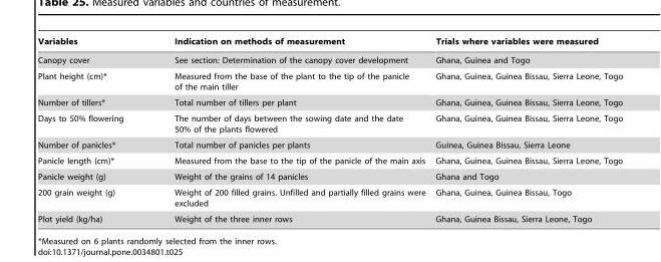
<table><thead><tr><td>Variables</td><td>Indication on methods of measurement</td><td>Trials where variables were measured</td></tr></thead><tbody><tr><td>Canopy cover</td><td>See section: Determination of the canopy cover development</td><td>Ghana, Guinea and Togo</td></tr><tr><td>Plant height (cm)*</td><td>Measured from the base of the plant to the tip of the panicle of the main tiller</td><td>Ghana, Guinea, Guinea Bissau, Sierra Leone, Togo</td></tr><tr><td>Number of tillers*</td><td>Total number of tillers per plant</td><td>Ghana, Guinea, Guinea Bissau, Sierra Leone, Togo</td></tr><tr><td>Days to 50% flowering</td><td>The number of days between the sowing date and the date 50% of the plants flowered</td><td>Ghana, Guinea, Guinea Bissau, Sierra Leone, Togo</td></tr><tr><td>Number of panicles*</td><td>Total number of panicles per plants</td><td>Guinea, Guinea Bissau, Sierra Leone</td></tr><tr><td>Panicle length (cm)*</td><td>Measured from the base to the tip of the panicle of the main axis</td><td>Ghana, Guinea, Guinea Bissau, Sierra Leone, Togo</td></tr><tr><td>Panicle weight (g)</td><td>Weight of the grains of 14 panicles</td><td>Ghana and Togo</td></tr><tr><td>200 grain weight (g)</td><td>Weight of 200 filled grains. Unfilled and partially filled grains were excluded</td><td>Ghana, Guinea, Guinea Bissau, Togo</td></tr><tr><td>Plot yield (kg/ha)</td><td>Weight of the three inner rows</td><td>Ghana, Guinea Bissau, Sierra Leone, Togo</td></tr></tbody></table>